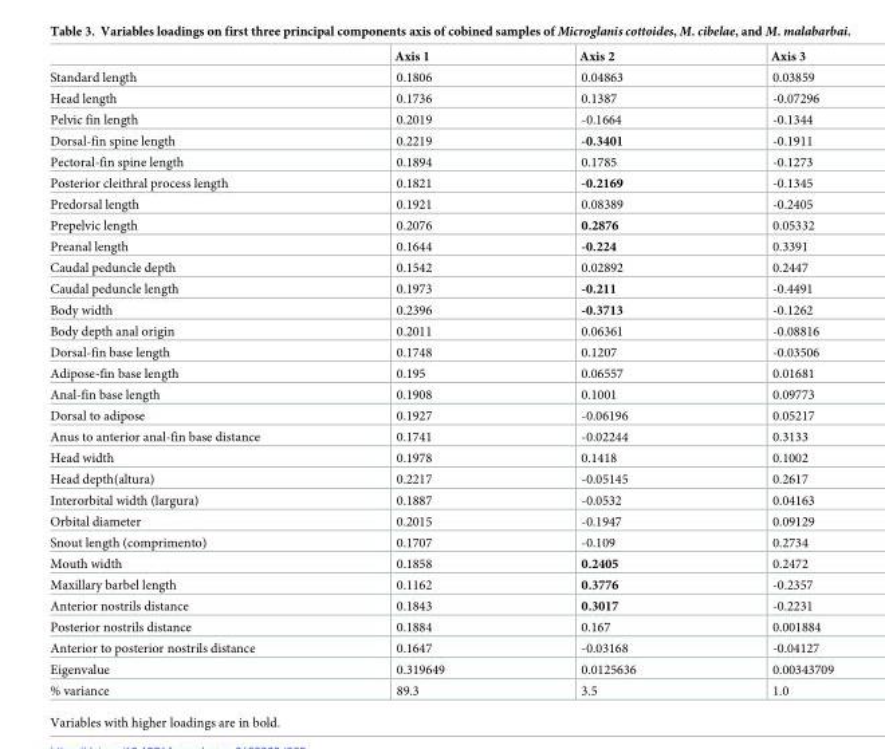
<table><thead><tr><td></td><td>Axis 1</td><td>Axis 2</td><td>Axis 3</td></tr></thead><tbody><tr><td>Standard length</td><td>0.1806</td><td>0.04863</td><td>0.03859</td></tr><tr><td>Head length</td><td>0.1736</td><td>0.1387</td><td>-0.07296</td></tr><tr><td>Pelvic fin length</td><td>0.2019</td><td>-0.1664</td><td>-0.1344</td></tr><tr><td>Dorsal-fin spine length</td><td>0.2219</td><td>-0.3401</td><td>-0.1911</td></tr><tr><td>Pectoral-fin spine length</td><td>0.1894</td><td>0.1785</td><td>-0.1273</td></tr><tr><td>Posterior cleithral process length</td><td>0.1821</td><td>-0.2169</td><td>-0.1345</td></tr><tr><td>Predorsal length</td><td>0.1921</td><td>0.08389</td><td>-0.2405</td></tr><tr><td>Prepelvic length</td><td>0.2076</td><td>0.2876</td><td>0.05332</td></tr><tr><td>Preanal length</td><td>0.1644</td><td>-0.224</td><td>0.3391</td></tr><tr><td>Caudal peduncle depth</td><td>0.1542</td><td>0.02892</td><td>0.2447</td></tr><tr><td>Caudal peduncle length</td><td>0.1973</td><td>-0.211</td><td>-0.4491</td></tr><tr><td>Body width</td><td>0.2396</td><td>-0.3713</td><td>-0.1262</td></tr><tr><td>Body depth anal origin</td><td>0.2011</td><td>0.06361</td><td>-0.08816</td></tr><tr><td>Dorsal-fin base length</td><td>0.1748</td><td>0.1207</td><td>-0.03506</td></tr><tr><td>Adipose-fin base length</td><td>0.195</td><td>0.06557</td><td>0.01681</td></tr><tr><td>Anal-fin base length</td><td>0.1908</td><td>0.1001</td><td>0.09773</td></tr><tr><td>Dorsal to adipose</td><td>0.1927</td><td>-0.06196</td><td>0.05217</td></tr><tr><td>Anus to anterior anal-fin base distance</td><td>0.1741</td><td>-0.02244</td><td>0.3133</td></tr><tr><td>Head width</td><td>0.1978</td><td>0.1418</td><td>0.1002</td></tr><tr><td>Head depth(altura)</td><td>0.2217</td><td>-0.05145</td><td>0.2617</td></tr><tr><td>Interorbital width (largura)</td><td>0.1887</td><td>-0.0532</td><td>0.04163</td></tr><tr><td>Orbital diameter</td><td>0.2015</td><td>-0.1947</td><td>0.09129</td></tr><tr><td>Snout length (comprimento)</td><td>0.1707</td><td>-0.109</td><td>0.2734</td></tr><tr><td>Mouth width</td><td>0.1858</td><td>0.2405</td><td>0.2472</td></tr><tr><td>Maxillary barbel length</td><td>0.1162</td><td>0.3776</td><td>-0.2357</td></tr><tr><td>Anterior nostrils distance</td><td>0.1843</td><td>0.3017</td><td>-0.2231</td></tr><tr><td>Posterior nostrils distance</td><td>0.1884</td><td>0.167</td><td>0.001884</td></tr><tr><td>Anterior to posterior nostrils distance</td><td>0.1647</td><td>-0.03168</td><td>-0.04127</td></tr><tr><td>Eigenvalue</td><td>0.319649</td><td>0.0125636</td><td>0.00343709</td></tr><tr><td>% variance</td><td>89.3</td><td>3.5</td><td>1.0</td></tr></tbody></table>